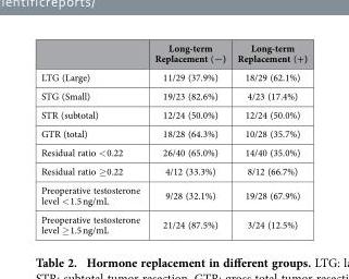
<table><thead><tr><td></td><td>Long-term Replacement (−)</td><td>Long-term Replacement (+)</td></tr></thead><tbody><tr><td>LTG (Large)</td><td>11/29 (37.9%)</td><td>18/29 (62.1%)</td></tr><tr><td>STG (Small)</td><td>19/23 (82.6%)</td><td>4/23 (17.4%)</td></tr><tr><td>STR (subtotal)</td><td>12/24 (50.0%)</td><td>12/24 (50.0%)</td></tr><tr><td>GTR (total)</td><td>18/28 (64.3%)</td><td>10/28 (35.7%)</td></tr><tr><td>Residual ratio &lt; 0.22</td><td>26/40 (65.0%)</td><td>14/40 (35.0%)</td></tr><tr><td>Residual ratio ≥ 0.22</td><td>4/12 (33.3%)</td><td>8/12 (66.7%)</td></tr><tr><td>Preoperative testosterone level &lt; 1.5 ng/mL</td><td>9/28 (32.1%)</td><td>19/28 (67.9%)</td></tr><tr><td>Preoperative testosterone level ≥ 1.5 ng/mL</td><td>21/24 (87.5%)</td><td>3/24 (12.5%)</td></tr></tbody></table>